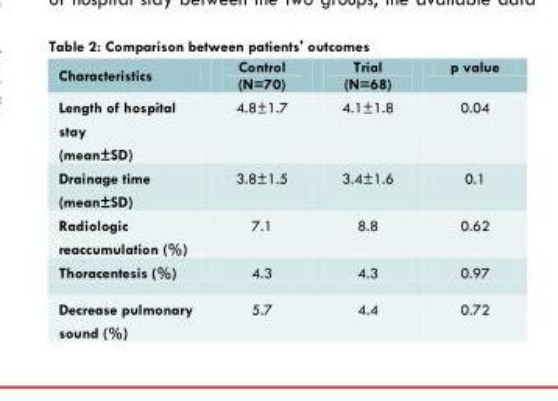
<table><thead><tr><td>Characteristics</td><td>Control (N=70)</td><td>Trial (N=68)</td><td>p value</td></tr></thead><tbody><tr><td>Length of hospital stay (mean±SD)</td><td>4.8±1.7</td><td>4.1±1.8</td><td>0.04</td></tr><tr><td>Drainage time (mean±SD)</td><td>3.8±1.5</td><td>3.4±1.6</td><td>0.1</td></tr><tr><td>Radiologic reaccumulation (%)</td><td>7.1</td><td>8.8</td><td>0.62</td></tr><tr><td>Thoracentesis (%)</td><td>4.3</td><td>4.3</td><td>0.97</td></tr><tr><td>Decrease pulmonary sound (%)</td><td>5.7</td><td>4.4</td><td>0.72</td></tr></tbody></table>